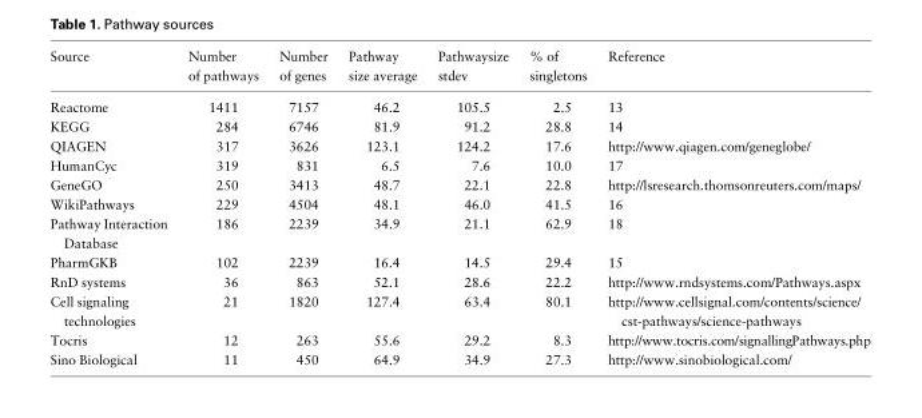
<table><thead><tr><td>Source</td><td>Number of pathways</td><td>Number of genes</td><td>Pathway size average</td><td>Pathwaysize stdev</td><td>% of singletons</td><td>Reference</td></tr></thead><tbody><tr><td>Reactome</td><td>1411</td><td>7157</td><td>46.2</td><td>105.5</td><td>2.5</td><td>13</td></tr><tr><td>KEGG</td><td>284</td><td>6746</td><td>81.9</td><td>91.2</td><td>28.8</td><td>14</td></tr><tr><td>QIAGEN</td><td>317</td><td>3626</td><td>123.1</td><td>124.2</td><td>17.6</td><td>http://www.qiagen.com/geneglobe/</td></tr><tr><td>HumanCyc</td><td>319</td><td>831</td><td>6.5</td><td>7.6</td><td>10.0</td><td>17</td></tr><tr><td>GeneGO</td><td>250</td><td>3413</td><td>48.7</td><td>22.1</td><td>22.8</td><td>http://lsresearch.thomsonreuters.com/maps/</td></tr><tr><td>WikiPathways</td><td>229</td><td>4504</td><td>48.1</td><td>46.0</td><td>41.5</td><td>16</td></tr><tr><td>Pathway Interaction Database</td><td>186</td><td>2239</td><td>34.9</td><td>21.1</td><td>62.9</td><td>18</td></tr><tr><td>PharmGKB</td><td>102</td><td>2239</td><td>16.4</td><td>14.5</td><td>29.4</td><td>15</td></tr><tr><td>RnD systems</td><td>36</td><td>863</td><td>52.1</td><td>28.6</td><td>22.2</td><td>http://www.rndsystems.com/Pathways.aspx</td></tr><tr><td>Cell signaling technologies</td><td>21</td><td>1820</td><td>127.4</td><td>63.4</td><td>80.1</td><td>http://www.cellsignal.com/contents/science/ cst-pathways/science-pathways</td></tr><tr><td>Tocris</td><td>12</td><td>263</td><td>55.6</td><td>29.2</td><td>8.3</td><td>http://www.tocris.com/signallingPathways.php</td></tr><tr><td>Sino Biological</td><td>11</td><td>450</td><td>64.9</td><td>34.9</td><td>27.3</td><td>http://www.sinobiological.com/</td></tr></tbody></table>